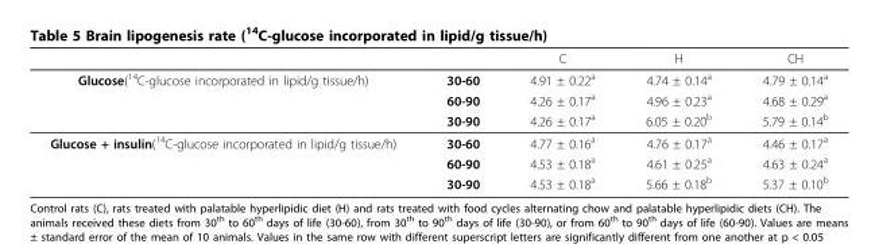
<table><thead><tr><td></td><td></td><td>C</td><td>H</td><td>CH</td></tr></thead><tbody><tr><td rowspan="3">Glucose(<sup>14</sup>C-glucose incorporated in lipid/g tissue/h)</td><td>30-60</td><td>4.91 ± 0.22<sup>a</sup></td><td>4.74 ± 0.14<sup>a</sup></td><td>4.79 ± 0.14<sup>a</sup></td></tr><tr><td>60-90</td><td>4.26 ± 0.17<sup>a</sup></td><td>4.96 ± 0.23<sup>a</sup></td><td>4.68 ± 0.29<sup>a</sup></td></tr><tr><td>30-90</td><td>4.26 ± 0.17<sup>a</sup></td><td>6.05 ± 0.20<sup>b</sup></td><td>5.79 ± 0.14<sup>b</sup></td></tr><tr><td rowspan="3">Glucose + insulin(<sup>14</sup>C-glucose incorporated in lipid/g tissue/h)</td><td>30-60</td><td>4.77 ± 0.16<sup>a</sup></td><td>4.76 ± 0.17<sup>a</sup></td><td>4.46 ± 0.17<sup>a</sup></td></tr><tr><td>60-90</td><td>4.53 ± 0.18<sup>a</sup></td><td>4.61 ± 0.25<sup>a</sup></td><td>4.63 ± 0.24<sup>a</sup></td></tr><tr><td>30-90</td><td>4.53 ± 0.18<sup>a</sup></td><td>5.66 ± 0.18<sup>b</sup></td><td>5.37 ± 0.10<sup>b</sup></td></tr></tbody></table>